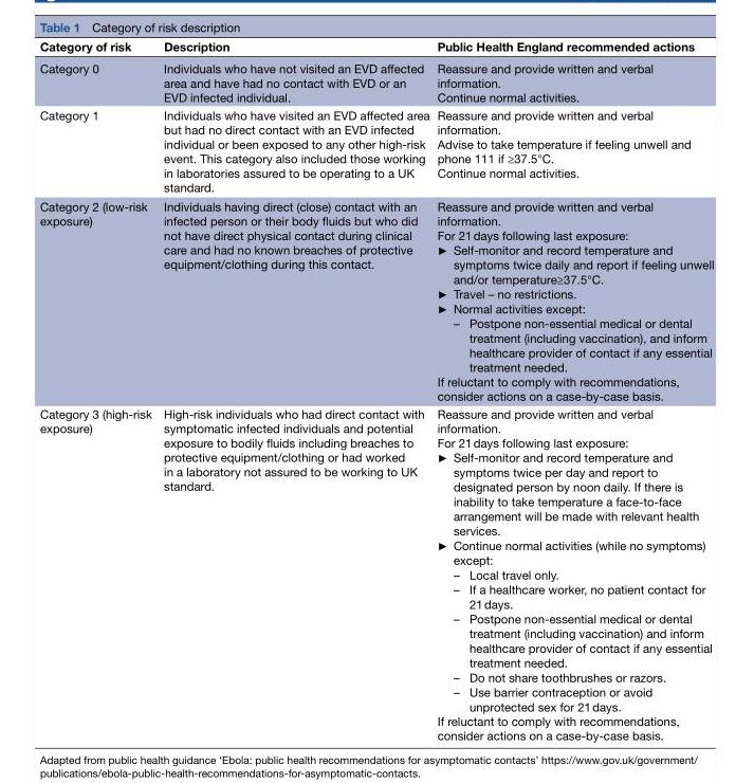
<table><thead><tr><td>Category of risk</td><td>Description</td><td>Public Health England recommended actions</td></tr></thead><tbody><tr><td>Category 0</td><td>Individuals who have not visited an EVD affected area and have had no contact with EVD or an EVD infected individual.</td><td>Reassure and provide written and verbal information. Continue normal activities.</td></tr><tr><td>Category 1</td><td>Individuals who have visited an EVD affected area but had no direct contact with an EVD infected individual or been exposed to any other high-risk event. This category also included those working in laboratories assured to be operating to a UK standard.</td><td>Reassure and provide written and verbal information. Advise to take temperature if feeling unwell and phone 111 if ≥37.5°C. Continue normal activities.</td></tr><tr><td>Category 2 (low-risk exposure)</td><td>Individuals having direct (close) contact with an infected person or their body fluids but who did not have direct physical contact during clinical care and had no known breaches of protective equipment/clothing during this contact.</td><td>Reassure and provide written and verbal information. For 21 days following last exposure: ► Self-monitor and record temperature and symptoms twice daily and report if feeling unwell and/or temperature≥37.5°C. ► Travel – no restrictions. ► Normal activities except: – Postpone non-essential medical or dental treatment (including vaccination), and inform healthcare provider of contact if any essential treatment needed. If reluctant to comply with recommendations, consider actions on a case-by-case basis.</td></tr><tr><td>Category 3 (high-risk exposure)</td><td>High-risk individuals who had direct contact with symptomatic infected individuals and potential exposure to bodily fluids including breaches to protective equipment/clothing or had worked in a laboratory not assured to be working to UK standard.</td><td>Reassure and provide written and verbal information. For 21 days following last exposure: ► Self-monitor and record temperature and symptoms twice per day and report to designated person by noon daily. If there is inability to take temperature a face-to-face arrangement will be made with relevant health services. ► Continue normal activities (while no symptoms) except: – Local travel only. – If a healthcare worker, no patient contact for 21 days. – Postpone non-essential medical or dental treatment (including vaccination) and inform healthcare provider of contact if any essential treatment needed. – Do not share toothbrushes or razors. – Use barrier contraception or avoid unprotected sex for 21 days. If reluctant to comply with recommendations, consider actions on a case-by-case basis.</td></tr></tbody></table>